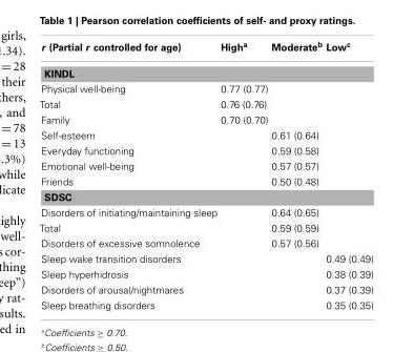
<table><thead><tr><td>r (Partial r controlled for age)</td><td>High<sup>a</sup></td><td>Moderate<sup>b</sup></td><td>Low<sup>c</sup></td></tr></thead><tbody><tr><td colspan="4">KINDL</td></tr><tr><td>Physical well-being</td><td>0.77 (0.77)</td><td></td><td></td></tr><tr><td>Total</td><td>0.76 (0.76)</td><td></td><td></td></tr><tr><td>Family</td><td>0.70 (0.70)</td><td></td><td></td></tr><tr><td>Self-esteem</td><td></td><td>0.61 (0.64)</td><td></td></tr><tr><td>Everyday functioning</td><td></td><td>0.59 (0.58)</td><td></td></tr><tr><td>Emotional well-being</td><td></td><td>0.57 (0.57)</td><td></td></tr><tr><td>Friends</td><td></td><td>0.50 (0.48)</td><td></td></tr><tr><td colspan="4">SDSC</td></tr><tr><td>Disorders of initiating/maintaining sleep</td><td></td><td>0.64 (0.65)</td><td></td></tr><tr><td>Total</td><td></td><td>0.59 (0.59)</td><td></td></tr><tr><td>Disorders of excessive somnolence</td><td></td><td>0.57 (0.56)</td><td></td></tr><tr><td>Sleep wake transition disorders</td><td></td><td></td><td>0.49 (0.49)</td></tr><tr><td>Sleep hyperhidrosis</td><td></td><td></td><td>0.38 (0.39)</td></tr><tr><td>Disorders of arousal/nightmares</td><td></td><td></td><td>0.37 (0.39)</td></tr><tr><td>Sleep breathing disorders</td><td></td><td></td><td>0.35 (0.35)</td></tr></tbody></table>